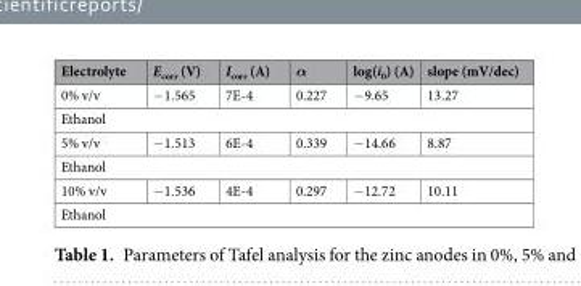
<table><thead><tr><td>Electrolyte</td><td>E<sub>corr</sub> (V)</td><td>I<sub>corr</sub> (A)</td><td>α</td><td>log(i<sub>0</sub>) (A)</td><td>slope (mV/dec)</td></tr></thead><tbody><tr><td>0% v/v</td><td>−1.565</td><td>7E-4</td><td>0.227</td><td>−9.65</td><td>13.27</td></tr><tr><td colspan="6">Ethanol</td></tr><tr><td>5% v/v</td><td>−1.513</td><td>6E-4</td><td>0.339</td><td>−14.66</td><td>8.87</td></tr><tr><td colspan="6">Ethanol</td></tr><tr><td>10% v/v</td><td>−1.536</td><td>4E-4</td><td>0.297</td><td>−12.72</td><td>10.11</td></tr><tr><td colspan="6">Ethanol</td></tr></tbody></table>